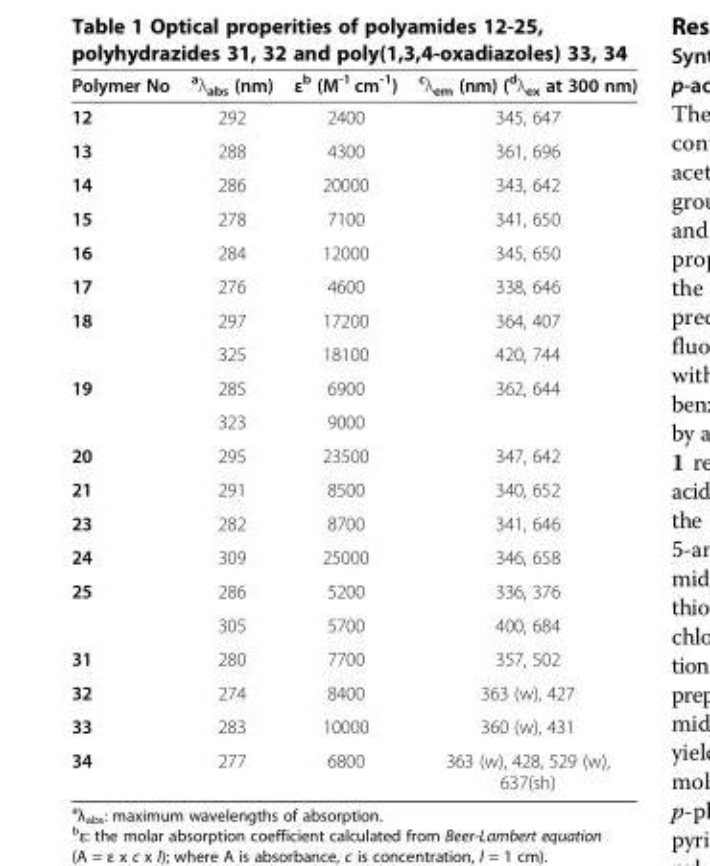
<table><thead><tr><td>Polymer No</td><td><sup>a</sup>λ<sub>abs</sub> (nm)</td><td>ε<sup>b</sup> (M<sup>-1</sup> cm<sup>-1</sup>)</td><td><sup>c</sup>λ<sub>em</sub> (nm) (<sup>d</sup>λ<sub>ex</sub> at 300 nm)</td></tr></thead><tbody><tr><td>12</td><td>292</td><td>2400</td><td>345, 647</td></tr><tr><td>13</td><td>288</td><td>4300</td><td>361, 696</td></tr><tr><td>14</td><td>286</td><td>20000</td><td>343, 642</td></tr><tr><td>15</td><td>278</td><td>7100</td><td>341, 650</td></tr><tr><td>16</td><td>284</td><td>12000</td><td>345, 650</td></tr><tr><td>17</td><td>276</td><td>4600</td><td>338, 646</td></tr><tr><td rowspan="2">18</td><td>297</td><td>17200</td><td>364, 407</td></tr><tr><td>325</td><td>18100</td><td>420, 744</td></tr><tr><td rowspan="2">19</td><td>285</td><td>6900</td><td>362, 644</td></tr><tr><td>323</td><td>9000</td><td></td></tr><tr><td>20</td><td>295</td><td>23500</td><td>347, 642</td></tr><tr><td>21</td><td>291</td><td>8500</td><td>340, 652</td></tr><tr><td>23</td><td>282</td><td>8700</td><td>341, 646</td></tr><tr><td>24</td><td>309</td><td>25000</td><td>346, 658</td></tr><tr><td rowspan="2">25</td><td>286</td><td>5200</td><td>336, 376</td></tr><tr><td>305</td><td>5700</td><td>400, 684</td></tr><tr><td>31</td><td>280</td><td>7700</td><td>357, 502</td></tr><tr><td>32</td><td>274</td><td>8400</td><td>363 (w), 427</td></tr><tr><td>33</td><td>283</td><td>10000</td><td>360 (w), 431</td></tr><tr><td>34</td><td>277</td><td>6800</td><td>363 (w), 428, 529 (w), 637(sh)</td></tr></tbody></table>